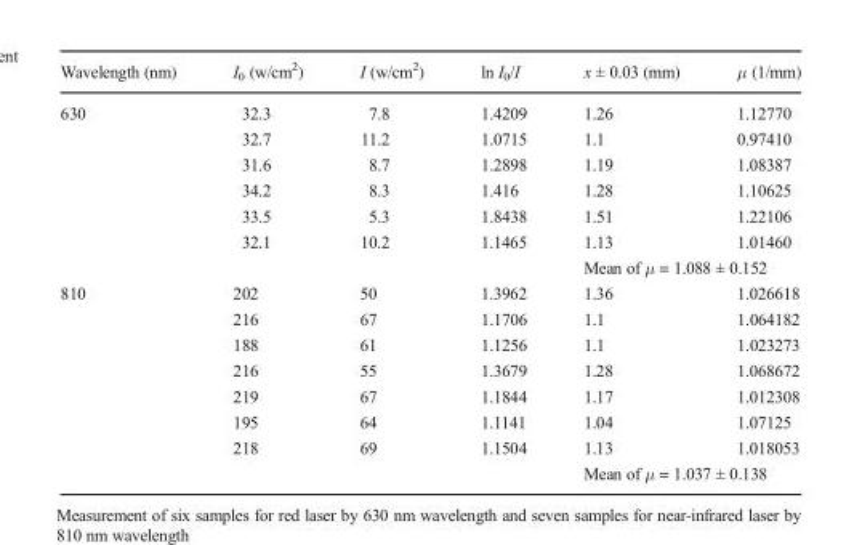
<table><thead><tr><td>Wavelength (nm)</td><td>I<sub>0</sub> (w/cm<sup>2</sup>)</td><td>I (w/cm<sup>2</sup>)</td><td>ln I<sub>0</sub>/I</td><td>x ± 0.03 (mm)</td><td>μ (1/mm)</td></tr></thead><tbody><tr><td rowspan="7">630</td><td>32.3</td><td>7.8</td><td>1.4209</td><td>1.26</td><td>1.12770</td></tr><tr><td>32.7</td><td>11.2</td><td>1.0715</td><td>1.1</td><td>0.97410</td></tr><tr><td>31.6</td><td>8.7</td><td>1.2898</td><td>1.19</td><td>1.08387</td></tr><tr><td>34.2</td><td>8.3</td><td>1.416</td><td>1.28</td><td>1.10625</td></tr><tr><td>33.5</td><td>5.3</td><td>1.8438</td><td>1.51</td><td>1.22106</td></tr><tr><td>32.1</td><td>10.2</td><td>1.1465</td><td>1.13</td><td>1.01460</td></tr><tr><td colspan="3"></td><td colspan="2">Mean of μ = 1.088 ± 0.152</td></tr><tr><td rowspan="8">810</td><td>202</td><td>50</td><td>1.3962</td><td>1.36</td><td>1.026618</td></tr><tr><td>216</td><td>67</td><td>1.1706</td><td>1.1</td><td>1.064182</td></tr><tr><td>188</td><td>61</td><td>1.1256</td><td>1.1</td><td>1.023273</td></tr><tr><td>216</td><td>55</td><td>1.3679</td><td>1.28</td><td>1.068672</td></tr><tr><td>219</td><td>67</td><td>1.1844</td><td>1.17</td><td>1.012308</td></tr><tr><td>195</td><td>64</td><td>1.1141</td><td>1.04</td><td>1.07125</td></tr><tr><td>218</td><td>69</td><td>1.1504</td><td>1.13</td><td>1.018053</td></tr><tr><td colspan="3"></td><td colspan="2">Mean of μ = 1.037 ± 0.138</td></tr></tbody></table>